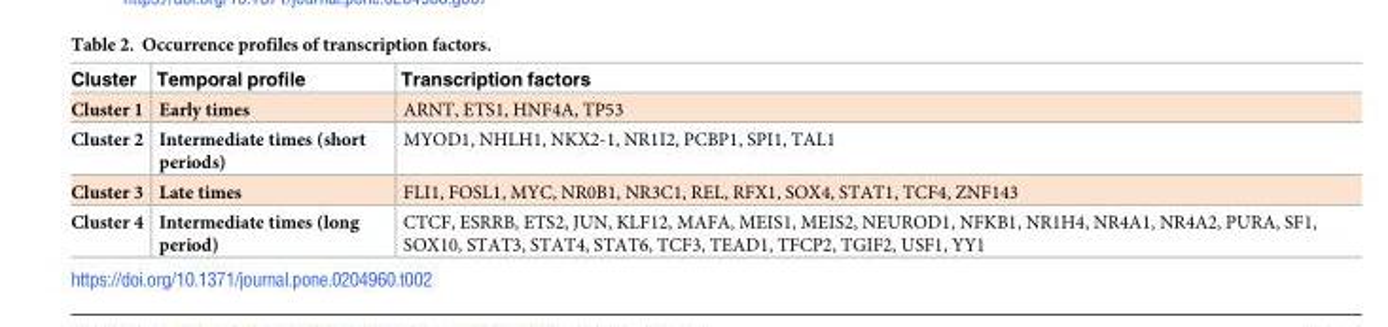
<table><thead><tr><td>Cluster</td><td>Temporal profile</td><td>Transcription factors</td></tr></thead><tbody><tr><td>Cluster 1</td><td>Early times</td><td>ARNT, ETS1, HNF4A, TP53</td></tr><tr><td>Cluster 2</td><td>Intermediate times (short periods)</td><td>MYOD1, NHLH1, NKX2-1, NR1I2, PCBP1, SPI1, TAL1</td></tr><tr><td>Cluster 3</td><td>Late times</td><td>FLI1, FOSL1, MYC, NR0B1, NR3C1, REL, RFX1, SOX4, STAT1, TCF4, ZNF143</td></tr><tr><td>Cluster 4</td><td>Intermediate times (long period)</td><td>CTCF, ESRRB, ETS2, JUN, KLF12, MAFA, MEIS1, MEIS2, NEUROD1, NFKB1, NR1H4, NR4A1, NR4A2, PURA, SF1, SOX10, STAT3, STAT4, STAT6, TCF3, TEAD1, TFCP2, TGIF2, USF1, YY1</td></tr></tbody></table>